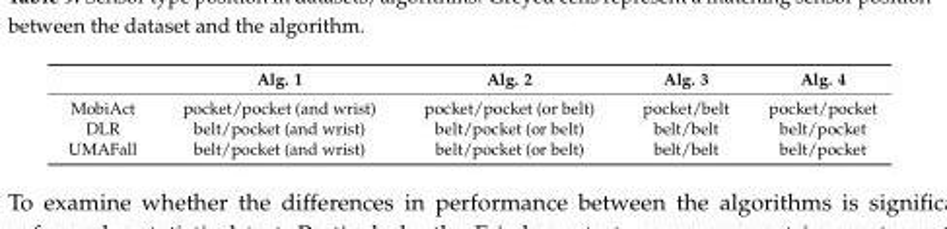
<table><thead><tr><td></td><td>Alg. 1</td><td>Alg. 2</td><td>Alg. 3</td><td>Alg. 4</td></tr></thead><tbody><tr><td>MobiAct</td><td>pocket/pocket (and wrist)</td><td>pocket/pocket (or belt)</td><td>pocket/belt</td><td>pocket/pocket</td></tr><tr><td>DLR</td><td>belt/pocket (and wrist)</td><td>belt/pocket (or belt)</td><td>belt/belt</td><td>belt/pocket</td></tr><tr><td>UMAFall</td><td>belt/pocket (and wrist)</td><td>belt/pocket (or belt)</td><td>belt/belt</td><td>belt/pocket</td></tr></tbody></table>